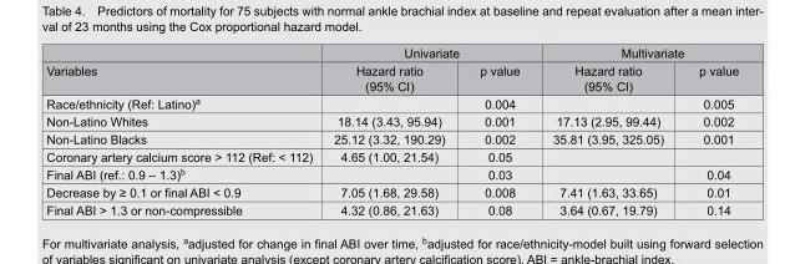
<table><thead><tr><td rowspan="2">Variables</td><td colspan="2">Univariate</td><td colspan="2">Multivariate</td></tr><tr><td>Hazard ratio (95% CI)</td><td>p value</td><td>Hazard ratio (95% CI)</td><td>p value</td></tr></thead><tbody><tr><td>Race/ethnicity (Ref: Latino)<sup>a</sup></td><td></td><td>0.004</td><td></td><td>0.005</td></tr><tr><td>Non-Latino Whites</td><td>18.14 (3.43, 95.94)</td><td>0.001</td><td>17.13 (2.95, 99.44)</td><td>0.002</td></tr><tr><td>Non-Latino Blacks</td><td>25.12 (3.32, 190.29)</td><td>0.002</td><td>35.81 (3.95, 325.05)</td><td>0.001</td></tr><tr><td>Coronary artery calcium score &gt; 112 (Ref: &lt; 112)</td><td>4.65 (1.00, 21.54)</td><td>0.05</td><td></td><td></td></tr><tr><td>Final ABI (ref.: 0.9 – 1.3)<sup>b</sup></td><td></td><td>0.03</td><td></td><td>0.04</td></tr><tr><td>Decrease by ≥ 0.1 or final ABI &lt; 0.9</td><td>7.05 (1.68, 29.58)</td><td>0.008</td><td>7.41 (1.63, 33.65)</td><td>0.01</td></tr><tr><td>Final ABI &gt; 1.3 or non-compressible</td><td>4.32 (0.86, 21.63)</td><td>0.08</td><td>3.64 (0.67, 19.79)</td><td>0.14</td></tr></tbody></table>